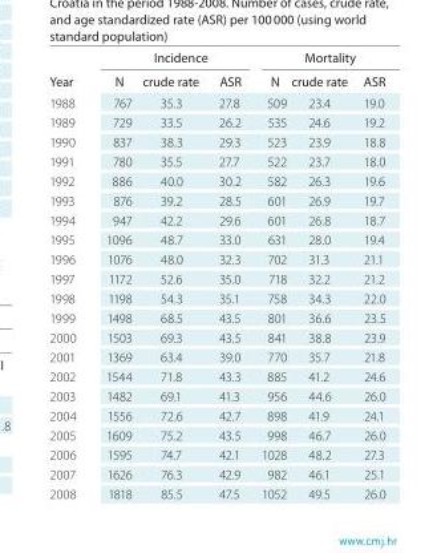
<table><thead><tr><td rowspan="2">Year</td><td colspan="3">Incidence</td><td colspan="3">Mortality</td></tr><tr><td>N</td><td>crude rate</td><td>AsR</td><td>N</td><td>crude rate</td><td>AsR</td></tr></thead><tbody><tr><td>1988</td><td>767</td><td>35.3</td><td>27.8</td><td>509</td><td>23.4</td><td>19.0</td></tr><tr><td>1989</td><td>729</td><td>33.5</td><td>26.2</td><td>535</td><td>24.6</td><td>19.2</td></tr><tr><td>1990</td><td>837</td><td>38.3</td><td>29.3</td><td>523</td><td>23.9</td><td>18.8</td></tr><tr><td>1991</td><td>780</td><td>35.5</td><td>27.7</td><td>522</td><td>23.7</td><td>18.0</td></tr><tr><td>1992</td><td>886</td><td>40.0</td><td>30.2</td><td>582</td><td>26.3</td><td>19.6</td></tr><tr><td>1993</td><td>876</td><td>39.2</td><td>28.5</td><td>601</td><td>26.9</td><td>19.7</td></tr><tr><td>1994</td><td>947</td><td>42.2</td><td>29.6</td><td>601</td><td>26.8</td><td>18.7</td></tr><tr><td>1995</td><td>1096</td><td>48.7</td><td>33.0</td><td>631</td><td>28.0</td><td>19.4</td></tr><tr><td>1996</td><td>1076</td><td>48.0</td><td>32.3</td><td>702</td><td>31.3</td><td>21.1</td></tr><tr><td>1997</td><td>1172</td><td>52.6</td><td>35.0</td><td>718</td><td>32.2</td><td>21.2</td></tr><tr><td>1998</td><td>1198</td><td>54.3</td><td>35.1</td><td>758</td><td>34.3</td><td>22.0</td></tr><tr><td>1999</td><td>1498</td><td>68.5</td><td>43.5</td><td>801</td><td>36.6</td><td>23.5</td></tr><tr><td>2000</td><td>1503</td><td>69.3</td><td>43.5</td><td>841</td><td>38.8</td><td>23.9</td></tr><tr><td>2001</td><td>1369</td><td>63.4</td><td>39.0</td><td>770</td><td>35.7</td><td>21.8</td></tr><tr><td>2002</td><td>1544</td><td>71.8</td><td>43.3</td><td>885</td><td>41.2</td><td>24.6</td></tr><tr><td>2003</td><td>1482</td><td>69.1</td><td>41.3</td><td>956</td><td>44.6</td><td>26.0</td></tr><tr><td>2004</td><td>1556</td><td>72.6</td><td>42.7</td><td>898</td><td>41.9</td><td>24.1</td></tr><tr><td>2005</td><td>1609</td><td>75.2</td><td>43.5</td><td>998</td><td>46.7</td><td>26.0</td></tr><tr><td>2006</td><td>1595</td><td>74.7</td><td>42.1</td><td>1028</td><td>48.2</td><td>27.3</td></tr><tr><td>2007</td><td>1626</td><td>76.3</td><td>42.9</td><td>982</td><td>46.1</td><td>25.1</td></tr><tr><td>2008</td><td>1818</td><td>85.5</td><td>47.5</td><td>1052</td><td>49.5</td><td>26.0</td></tr></tbody></table>